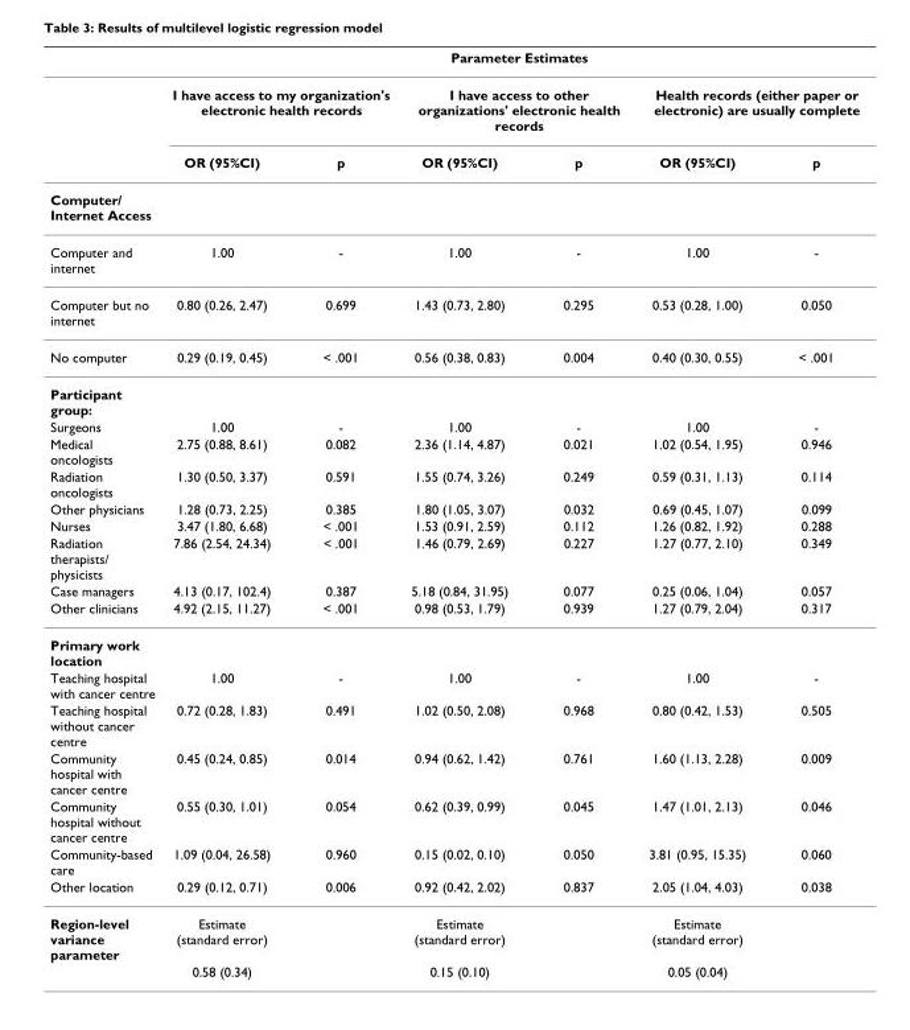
<table><thead><tr><td rowspan="3"></td><td colspan="6">Parameter Estimates</td></tr><tr><td colspan="2">I have access to my organization&#x27;s electronic health records</td><td colspan="2">I have access to other organizations&#x27; electronic health records</td><td colspan="2">Health records (either paper or electronic) are usually complete</td></tr><tr><td>OR (95%CI)</td><td>p</td><td>OR (95%CI)</td><td>p</td><td>OR (95%CI)</td><td>p</td></tr></thead><tbody><tr><td colspan="7">Computer/ Internet Access</td></tr><tr><td>Computer and internet</td><td>1.00</td><td>-</td><td>1.00</td><td>-</td><td>1.00</td><td>-</td></tr><tr><td>Computer but no internet</td><td>0.80 (0.26, 2.47)</td><td>0.699</td><td>1.43 (0.73, 2.80)</td><td>0.295</td><td>0.53 (0.28, 1.00)</td><td>0.050</td></tr><tr><td>No computer</td><td>0.29 (0.19, 0.45)</td><td>&lt; .001</td><td>0.56 (0.38, 0.83)</td><td>0.004</td><td>0.40 (0.30, 0.55)</td><td>&lt; .001</td></tr><tr><td colspan="7">Participant group:</td></tr><tr><td>Surgeons</td><td>1.00</td><td>-</td><td>1.00</td><td>-</td><td>1.00</td><td>-</td></tr><tr><td>Medical oncologists</td><td>2.75 (0.88, 8.61)</td><td>0.082</td><td>2.36 (1.14, 4.87)</td><td>0.021</td><td>1.02 (0.54, 1.95)</td><td>0.946</td></tr><tr><td>Radiation oncologists</td><td>1.30 (0.50, 3.37)</td><td>0.591</td><td>1.55 (0.74, 3.26)</td><td>0.249</td><td>0.59 (0.31, 1.13)</td><td>0.114</td></tr><tr><td>Other physicians</td><td>1.28 (0.73, 2.25)</td><td>0.385</td><td>1.80 (1.05, 3.07)</td><td>0.032</td><td>0.69 (0.45, 1.07)</td><td>0.099</td></tr><tr><td>Nurses</td><td>3.47 (1.80, 6.68)</td><td>&lt; .001</td><td>1.53 (0.91, 2.59)</td><td>0.112</td><td>1.26 (0.82, 1.92)</td><td>0.288</td></tr><tr><td>Radiation therapists/ physicists</td><td>7.86 (2.54, 24.34)</td><td>&lt; .001</td><td>1.46 (0.79, 2.69)</td><td>0.227</td><td>1.27 (0.77, 2.10)</td><td>0.349</td></tr><tr><td>Case managers</td><td>4.13 (0.17, 102.4)</td><td>0.387</td><td>5.18 (0.84, 31.95)</td><td>0.077</td><td>0.25 (0.06, 1.04)</td><td>0.057</td></tr><tr><td>Other clinicians</td><td>4.92 (2.15, 11.27)</td><td>&lt; .001</td><td>0.98 (0.53, 1.79)</td><td>0.939</td><td>1.27 (0.79, 2.04)</td><td>0.317</td></tr><tr><td colspan="7">Primary work location</td></tr><tr><td>Teaching hospital with cancer centre</td><td>1.00</td><td>-</td><td>1.00</td><td>-</td><td>1.00</td><td>-</td></tr><tr><td>Teaching hospital without cancer centre</td><td>0.72 (0.28, 1.83)</td><td>0.491</td><td>1.02 (0.50, 2.08)</td><td>0.968</td><td>0.80 (0.42, 1.53)</td><td>0.505</td></tr><tr><td>Community hospital with cancer centre</td><td>0.45 (0.24, 0.85)</td><td>0.014</td><td>0.94 (0.62, 1.42)</td><td>0.761</td><td>1.60 (1.13, 2.28)</td><td>0.009</td></tr><tr><td>Community hospital without cancer centre</td><td>0.55 (0.30, 1.01)</td><td>0.054</td><td>0.62 (0.39, 0.99)</td><td>0.045</td><td>1.47 (1.01, 2.13)</td><td>0.046</td></tr><tr><td>Community-based care</td><td>1.09 (0.04, 26.58)</td><td>0.960</td><td>0.15 (0.02, 0.10)</td><td>0.050</td><td>3.81 (0.95, 15.35)</td><td>0.060</td></tr><tr><td>Other location</td><td>0.29 (0.12, 0.71)</td><td>0.006</td><td>0.92 (0.42, 2.02)</td><td>0.837</td><td>2.05 (1.04, 4.03)</td><td>0.038</td></tr><tr><td rowspan="2">Region-level variance parameter</td><td>Estimate (standard error)</td><td></td><td>Estimate (standard error)</td><td></td><td>Estimate (standard error)</td><td></td></tr><tr><td>0.58 (0.34)</td><td></td><td>0.15 (0.10)</td><td></td><td>0.05 (0.04)</td><td></td></tr></tbody></table>